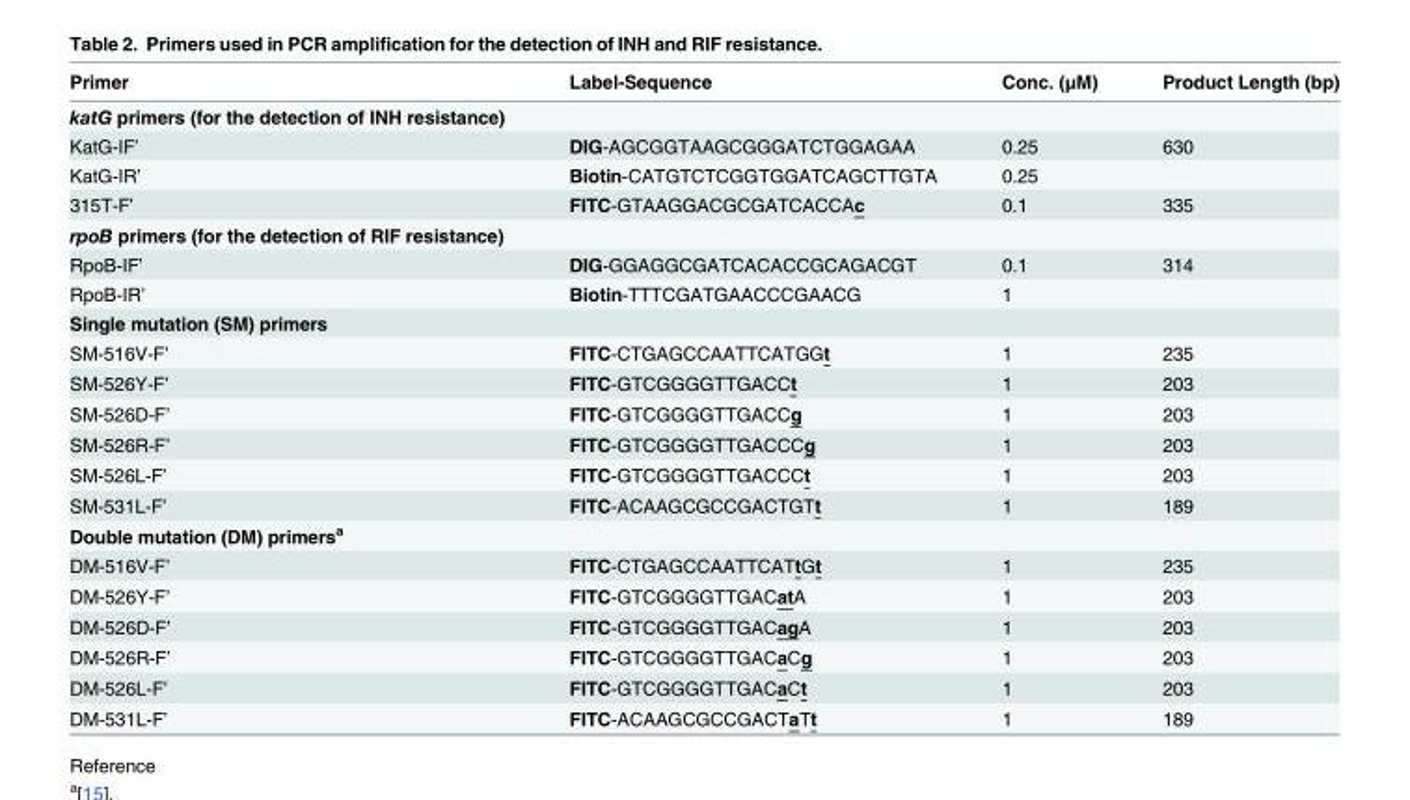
<table><thead><tr><td>Primer</td><td>Label-Sequence</td><td>Conc. (μM)</td><td>Product Length (bp)</td></tr></thead><tbody><tr><td colspan="4">katG primers (for the detection of INH resistance)</td></tr><tr><td>KatG-IF’</td><td>DIG-AGCGGTAAGCGGGATCTGGAGAA</td><td>0.25</td><td>630</td></tr><tr><td>KatG-IR’</td><td>Biotin-CATGTCTCGGTGGATCAGCTTGTA</td><td>0.25</td><td></td></tr><tr><td>315T-F’</td><td>FITC-GTAAGGACGCGATCACCAc</td><td>0.1</td><td>335</td></tr><tr><td colspan="4">rpoB primers (for the detection of RIF resistance)</td></tr><tr><td>RpoB-IF’</td><td>DIG-GGAGGCGATCACACCGCAGACGT</td><td>0.1</td><td>314</td></tr><tr><td>RpoB-IR’</td><td>Biotin-TTTCGATGAACCCGAACG</td><td>1</td><td></td></tr><tr><td colspan="4">Single mutation (SM) primers</td></tr><tr><td>SM-516V-F’</td><td>FITC-CTGAGCCAATTCATGGt</td><td>1</td><td>235</td></tr><tr><td>SM-526Y-F’</td><td>FITC-GTCGGGGTTGACCt</td><td>1</td><td>203</td></tr><tr><td>SM-526D-F’</td><td>FITC-GTCGGGGTTGACCg</td><td>1</td><td>203</td></tr><tr><td>SM-526R-F’</td><td>FITC-GTCGGGGTTGACCCg</td><td>1</td><td>203</td></tr><tr><td>SM-526L-F’</td><td>FITC-GTCGGGGTTGACCCt</td><td>1</td><td>203</td></tr><tr><td>SM-531L-F’</td><td>FITC-ACAAGCGCCGACTGTt</td><td>1</td><td>189</td></tr><tr><td colspan="4">Double mutation (DM) primers<sup>a</sup></td></tr><tr><td>DM-516V-F’</td><td>FITC-CTGAGCCAATTCATtGt</td><td>1</td><td>235</td></tr><tr><td>DM-526Y-F’</td><td>FITC-GTCGGGGTTGACatA</td><td>1</td><td>203</td></tr><tr><td>DM-526D-F’</td><td>FITC-GTCGGGGTTGACagA</td><td>1</td><td>203</td></tr><tr><td>DM-526R-F’</td><td>FITC-GTCGGGGTTGACaCg</td><td>1</td><td>203</td></tr><tr><td>DM-526L-F’</td><td>FITC-GTCGGGGTTGACaCt</td><td>1</td><td>203</td></tr><tr><td>DM-531L-F’</td><td>FITC-ACAAGCGCCGACTaTt</td><td>1</td><td>189</td></tr></tbody></table>